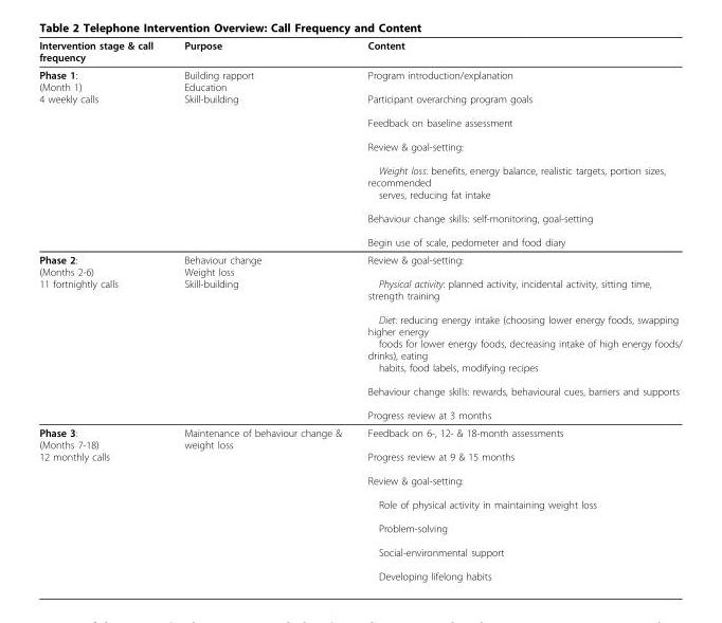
<table><thead><tr><td>Intervention stage &amp; call frequency</td><td>Purpose</td><td>Content</td></tr></thead><tbody><tr><td>Phase 1: (Month 1) 4 weekly calls</td><td>Building rapport Education Skill-building</td><td>Program introduction/explanation Participant overarching program goals Feedback on baseline assessment Review &amp; goal-setting: Weight loss: benefits, energy balance, realistic targets, portion sizes, recommended serves, reducing fat intake Behaviour change skills: self-monitoring, goal-setting Begin use of scale, pedometer and food diary</td></tr><tr><td>Phase 2: (Months 2-6) 11 fortnightly calls</td><td>Behaviour change Weight loss Skill-building</td><td>Review &amp; goal-setting: Physical activity: planned activity, incidental activity, sitting time, strength training Diet: reducing energy intake (choosing lower energy foods, swapping higher energy foods for lower energy foods, decreasing intake of high energy foods/ drinks), eating habits, food labels, modifying recipes Behaviour change skills: rewards, behavioural cues, barriers and supports Progress review at 3 months</td></tr><tr><td>Phase 3: (Months 7-18) 12 monthly calls</td><td>Maintenance of behaviour change &amp; weight loss</td><td>Feedback on 6-, 12- &amp; 18-month assessments Progress review at 9 &amp; 15 months Review &amp; goal-setting: Role of physical activity in maintaining weight loss Problem-solving Social-environmental support Developing lifelong habits</td></tr></tbody></table>